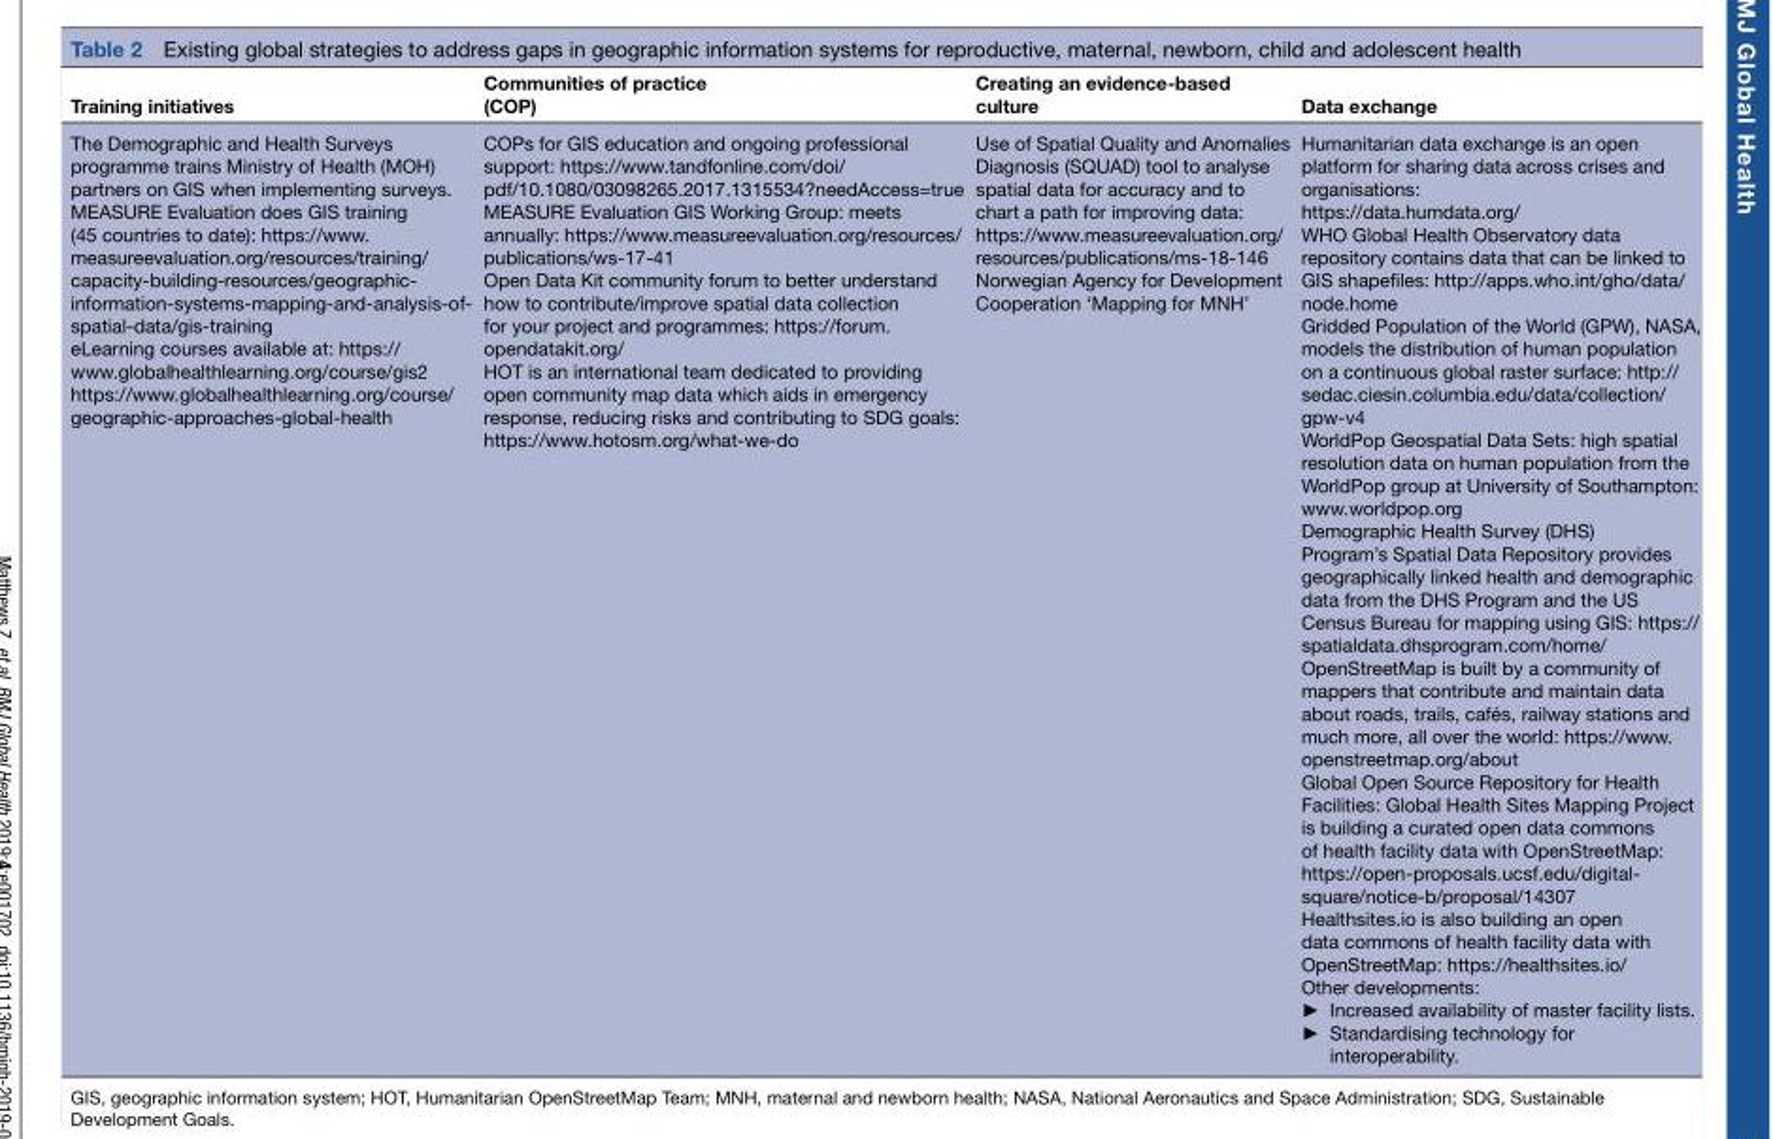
<table><thead><tr><td>Training initiatives</td><td>Communities of practice (COP)</td><td>Creating an evidence-based culture</td><td>Data exchange</td></tr></thead><tbody><tr><td>The Demographic and Health Surveys programme trains Ministry of Health (MOH) partners on GIS when implementing surveys. MEASURE Evaluation does GIS training (45 countries to date): https://www. measureevaluation.org/resources/training/ capacity-building-resources/geographic- information-systems-mapping-and-analysis-of- spatial-data/gis-training eLearning courses available at: https:// www.globalhealthlearning.org/course/gis2 https://www.globalhealthlearning.org/course/ geographic-approaches-global-health</td><td>COPs for GIS education and ongoing professional support: https://www.tandfonline.com/doi/ pdf/10.1080/03098265.2017.1315534?needAccess=true MEASURE Evaluation GIS Working Group: meets annually: https://www.measureevaluation.org/resources/ publications/ws-17-41 Open Data Kit community forum to better understand how to contribute/improve spatial data collection for your project and programmes: https://forum. opendatakit.org/ HOT is an international team dedicated to providing open community map data which aids in emergency response, reducing risks and contributing to SDG goals: https://www.hotosm.org/what-we-do</td><td>Use of Spatial Quality and Anomalies Diagnosis (SQUAD) tool to analyse spatial data for accuracy and to chart a path for improving data: https://www.measureevaluation.org/ resources/publications/ms-18-146 Norwegian Agency for Development Cooperation ‘Mapping for MNH’</td><td>Humanitarian data exchange is an open platform for sharing data across crises and organisations: https://data.humdata.org/ WHO Global Health Observatory data repository contains data that can be linked to GIS shapefiles: http://apps.who.int/gho/data/ node.home Gridded Population of the World (GPW), NASA, models the distribution of human population on a continuous global raster surface: http:// sedac.ciesin.columbia.edu/data/collection/ gpw-v4 WorldPop Geospatial Data Sets: high spatial resolution data on human population from the WorldPop group at University of Southampton: www.worldpop.org Demographic Health Survey (DHS) Program’s Spatial Data Repository provides geographically linked health and demographic data from the DHS Program and the US Census Bureau for mapping using GIS: https:// spatialdata.dhsprogram.com/home/ OpenStreetMap is built by a community of mappers that contribute and maintain data about roads, trails, cafés, railway stations and much more, all over the world: https://www. openstreetmap.org/about Global Open Source Repository for Health Facilities: Global Health Sites Mapping Project is building a curated open data commons of health facility data with OpenStreetMap: https://open-proposals.ucsf.edu/digital- square/notice-b/proposal/14307 Healthsites.io is also building an open data commons of health facility data with OpenStreetMap: https://healthsites.io/ Other developments: ► Increased availability of master facility lists. ► Standardising technology for interoperability.</td></tr></tbody></table>